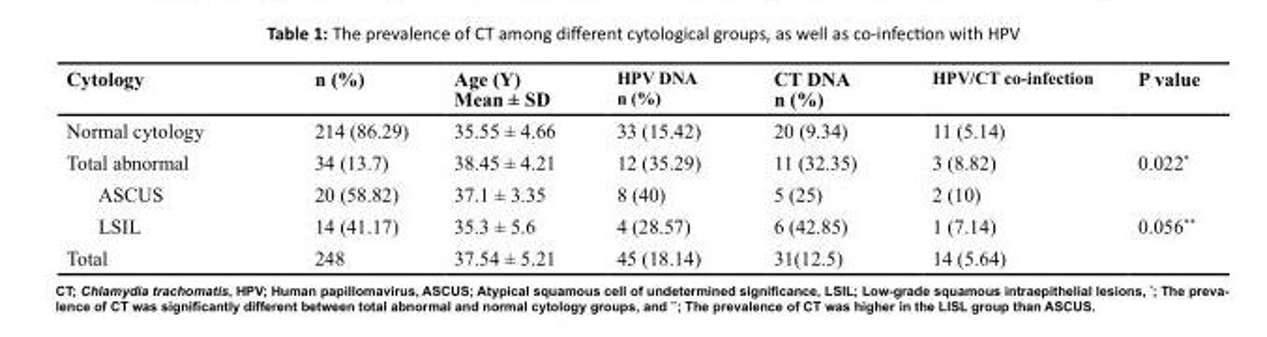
<table><thead><tr><td>Cytology</td><td>n (%)</td><td>Age (Y) Mean ± SD</td><td>HPV DNA n (%)</td><td>CT DNA n (%)</td><td>HPV/CT co-infection</td><td>P value</td></tr></thead><tbody><tr><td>Normal cytology</td><td>214 (86.29)</td><td>35.55 ± 4.66</td><td>33 (15.42)</td><td>20 (9.34)</td><td>11 (5.14)</td><td></td></tr><tr><td>Total abnormal</td><td>34 (13.7)</td><td>38.45 ± 4.21</td><td>12 (35.29)</td><td>11 (32.35)</td><td>3 (8.82)</td><td>0.022*</td></tr><tr><td>ASCUS</td><td>20 (58.82)</td><td>37.1 ± 3.35</td><td>8 (40)</td><td>5 (25)</td><td>2 (10)</td><td></td></tr><tr><td>LSIL</td><td>14 (41.17)</td><td>35.3 ± 5.6</td><td>4 (28.57)</td><td>6 (42.85)</td><td>1 (7.14)</td><td>0.056**</td></tr><tr><td>Total</td><td>248</td><td>37.54 ± 5.21</td><td>45 (18.14)</td><td>31(12.5)</td><td>14 (5.64)</td><td></td></tr></tbody></table>